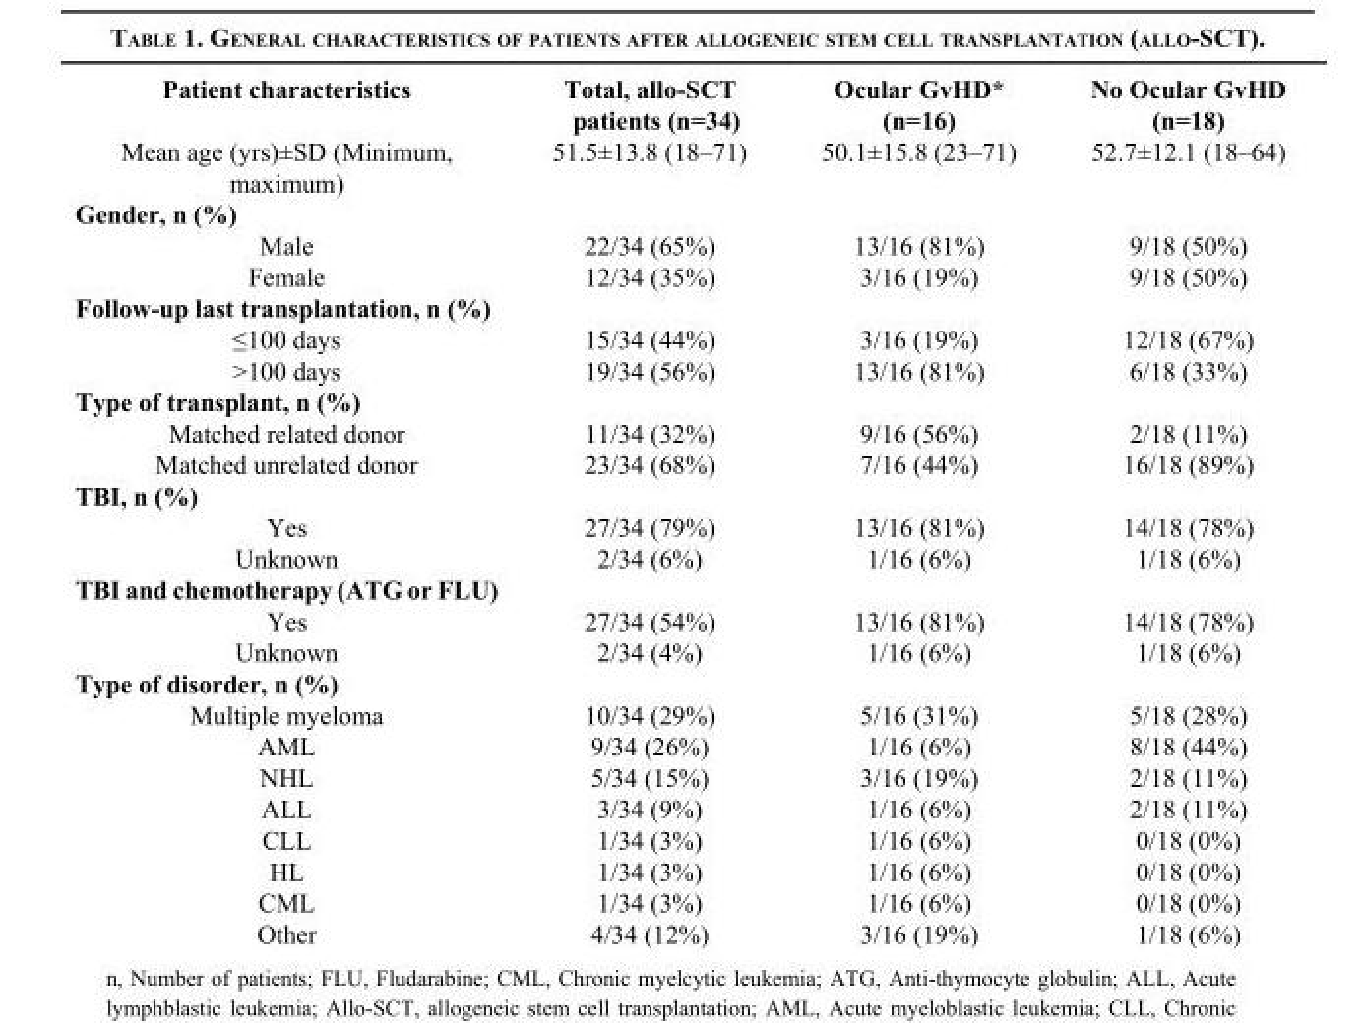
<table><thead><tr><td>Patient characteristics</td><td>Total, allo-SCT patients (n=34)</td><td>Ocular GvHD* (n=16)</td><td>No Ocular GvHD (n=18)</td></tr></thead><tbody><tr><td>Mean age (yrs)±SD (Minimum, maximum)</td><td>51.5±13.8 (18–71)</td><td>50.1±15.8 (23–71)</td><td>52.7±12.1 (18–64)</td></tr><tr><td colspan="4">Gender, n (%)</td></tr><tr><td>Male</td><td>22/34 (65%)</td><td>13/16 (81%)</td><td>9/18 (50%)</td></tr><tr><td>Female</td><td>12/34 (35%)</td><td>3/16 (19%)</td><td>9/18 (50%)</td></tr><tr><td colspan="4">Follow-up last transplantation, n (%)</td></tr><tr><td>≤100 days</td><td>15/34 (44%)</td><td>3/16 (19%)</td><td>12/18 (67%)</td></tr><tr><td>&gt;100 days</td><td>19/34 (56%)</td><td>13/16 (81%)</td><td>6/18 (33%)</td></tr><tr><td colspan="4">Type of transplant, n (%)</td></tr><tr><td>Matched related donor</td><td>11/34 (32%)</td><td>9/16 (56%)</td><td>2/18 (11%)</td></tr><tr><td>Matched unrelated donor</td><td>23/34 (68%)</td><td>7/16 (44%)</td><td>16/18 (89%)</td></tr><tr><td colspan="4">TBI, n (%)</td></tr><tr><td>Yes</td><td>27/34 (79%)</td><td>13/16 (81%)</td><td>14/18 (78%)</td></tr><tr><td>Unknown</td><td>2/34 (6%)</td><td>1/16 (6%)</td><td>1/18 (6%)</td></tr><tr><td colspan="4">TBI and chemotherapy (ATG or FLU)</td></tr><tr><td>Yes</td><td>27/34 (54%)</td><td>13/16 (81%)</td><td>14/18 (78%)</td></tr><tr><td>Unknown</td><td>2/34 (4%)</td><td>1/16 (6%)</td><td>1/18 (6%)</td></tr><tr><td colspan="4">Type of disorder, n (%)</td></tr><tr><td>Multiple myeloma</td><td>10/34 (29%)</td><td>5/16 (31%)</td><td>5/18 (28%)</td></tr><tr><td>AML</td><td>9/34 (26%)</td><td>1/16 (6%)</td><td>8/18 (44%)</td></tr><tr><td>NHL</td><td>5/34 (15%)</td><td>3/16 (19%)</td><td>2/18 (11%)</td></tr><tr><td>ALL</td><td>3/34 (9%)</td><td>1/16 (6%)</td><td>2/18 (11%)</td></tr><tr><td>CLL</td><td>1/34 (3%)</td><td>1/16 (6%)</td><td>0/18 (0%)</td></tr><tr><td>HL</td><td>1/34 (3%)</td><td>1/16 (6%)</td><td>0/18 (0%)</td></tr><tr><td>CML</td><td>1/34 (3%)</td><td>1/16 (6%)</td><td>0/18 (0%)</td></tr><tr><td>Other</td><td>4/34 (12%)</td><td>3/16 (19%)</td><td>1/18 (6%)</td></tr></tbody></table>